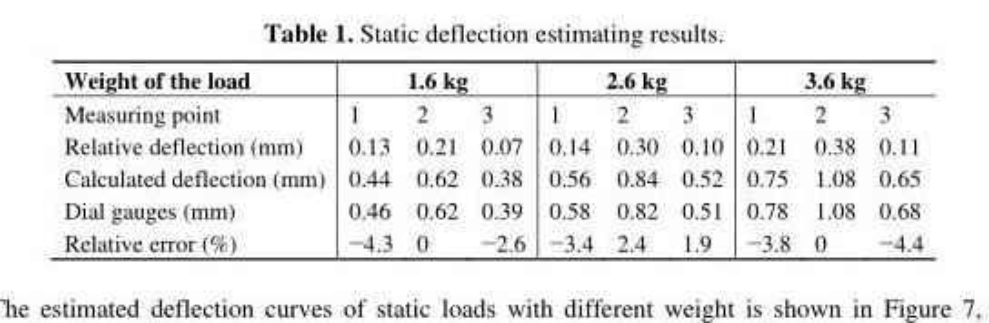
<table><thead><tr><td rowspan="2">Weight of the load Measuring point</td><td colspan="3">1.6 kg</td><td colspan="3">2.6 kg</td><td colspan="3">3.6 kg</td></tr><tr><td>1</td><td>2</td><td>3</td><td>1</td><td>2</td><td>3</td><td>1</td><td>2</td><td>3</td></tr></thead><tbody><tr><td>Relative deflection (mm)</td><td>0.13</td><td>0.21</td><td>0.07</td><td>0.14</td><td>0.30</td><td>0.10</td><td>0.21</td><td>0.38</td><td>0.11</td></tr><tr><td>Calculated deflection (mm)</td><td>0.44</td><td>0.62</td><td>0.38</td><td>0.56</td><td>0.84</td><td>0.52</td><td>0.75</td><td>1.08</td><td>0.65</td></tr><tr><td>Dial gauges (mm)</td><td>0.46</td><td>0.62</td><td>0.39</td><td>0.58</td><td>0.82</td><td>0.51</td><td>0.78</td><td>1.08</td><td>0.68</td></tr><tr><td>Relative error (%)</td><td>−4.3</td><td>0</td><td>−2.6</td><td>−3.4</td><td>2.4</td><td>1.9</td><td>−3.8</td><td>0</td><td>−4.4</td></tr></tbody></table>